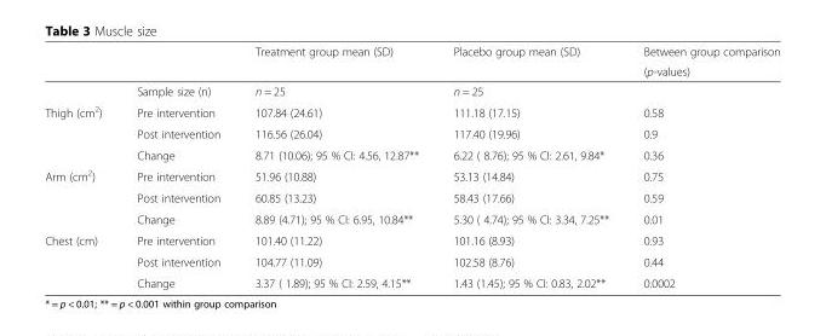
<table><thead><tr><td rowspan="2"></td><td rowspan="2"></td><td rowspan="2">Treatment group mean (SD)</td><td rowspan="2">Placebo group mean (SD)</td><td rowspan="2">Between group comparison (p-values)</td></tr><tr></tr></thead><tbody><tr><td></td><td>Sample size (n)</td><td>n = 25</td><td>n = 25</td><td></td></tr><tr><td rowspan="3">Thigh (cm<sup>2</sup>)</td><td>Pre intervention</td><td>107.84 (24.61)</td><td>111.18 (17.15)</td><td>0.58</td></tr><tr><td>Post intervention</td><td>116.56 (26.04)</td><td>117.40 (19.96)</td><td>0.9</td></tr><tr><td>Change</td><td>8.71 (10.06); 95 % CI: 4.56, 12.87**</td><td>6.22 ( 8.76); 95 % CI: 2.61, 9.84*</td><td>0.36</td></tr><tr><td rowspan="3">Arm (cm<sup>2</sup>)</td><td>Pre intervention</td><td>51.96 (10.88)</td><td>53.13 (14.84)</td><td>0.75</td></tr><tr><td>Post intervention</td><td>60.85 (13.23)</td><td>58.43 (17.66)</td><td>0.59</td></tr><tr><td>Change</td><td>8.89 (4.71); 95 % CI: 6.95, 10.84**</td><td>5.30 ( 4.74); 95 % CI: 3.34, 7.25**</td><td>0.01</td></tr><tr><td rowspan="3">Chest (cm)</td><td>Pre intervention</td><td>101.40 (11.22)</td><td>101.16 (8.93)</td><td>0.93</td></tr><tr><td>Post intervention</td><td>104.77 (11.09)</td><td>102.58 (8.76)</td><td>0.44</td></tr><tr><td>Change</td><td>3.37 ( 1.89); 95 % CI: 2.59, 4.15**</td><td>1.43 (1.45); 95 % CI: 0.83, 2.02**</td><td>0.0002</td></tr></tbody></table>